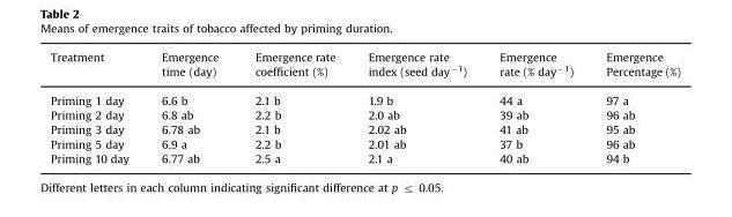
<table><thead><tr><td>Treatment</td><td>Emergence time (day)</td><td>Emergence rate coefficient (%)</td><td>Emergence rate index (seed day<sup>−1</sup>)</td><td>Emergence rate (% day<sup>−1</sup>)</td><td>Emergence Percentage (%)</td></tr></thead><tbody><tr><td>Priming 1 day</td><td>6.6 b</td><td>2.1 b</td><td>1.9 b</td><td>44 a</td><td>97 a</td></tr><tr><td>Priming 2 day</td><td>6.8 ab</td><td>2.2 b</td><td>2.0 ab</td><td>39 ab</td><td>96 ab</td></tr><tr><td>Priming 3 day</td><td>6.78 ab</td><td>2.1 b</td><td>2.02 ab</td><td>41 ab</td><td>95 ab</td></tr><tr><td>Priming 5 day</td><td>6.9 a</td><td>2.2 b</td><td>2.01 ab</td><td>37 b</td><td>96 ab</td></tr><tr><td>Priming 10 day</td><td>6.77 ab</td><td>2.5 a</td><td>2.1 a</td><td>40 ab</td><td>94 b</td></tr></tbody></table>